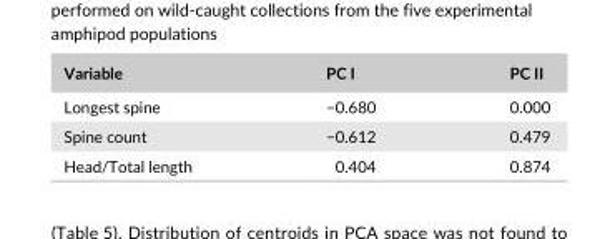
<table><thead><tr><td>Variable</td><td>PC I</td><td>PC II</td></tr></thead><tbody><tr><td>Longest spine</td><td>−0.680</td><td>0.000</td></tr><tr><td>Spine count</td><td>−0.612</td><td>0.479</td></tr><tr><td>Head/Total length</td><td>0.404</td><td>0.874</td></tr></tbody></table>